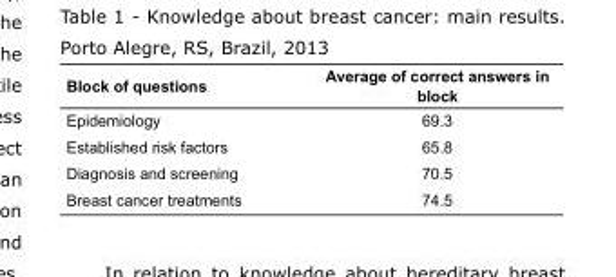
<table><thead><tr><td>Block of questions</td><td>Average of correct answers in block</td></tr></thead><tbody><tr><td>Epidemiology</td><td>69.3</td></tr><tr><td>Established risk factors</td><td>65.8</td></tr><tr><td>Diagnosis and screening</td><td>70.5</td></tr><tr><td>Breast cancer treatments</td><td>74.5</td></tr></tbody></table>